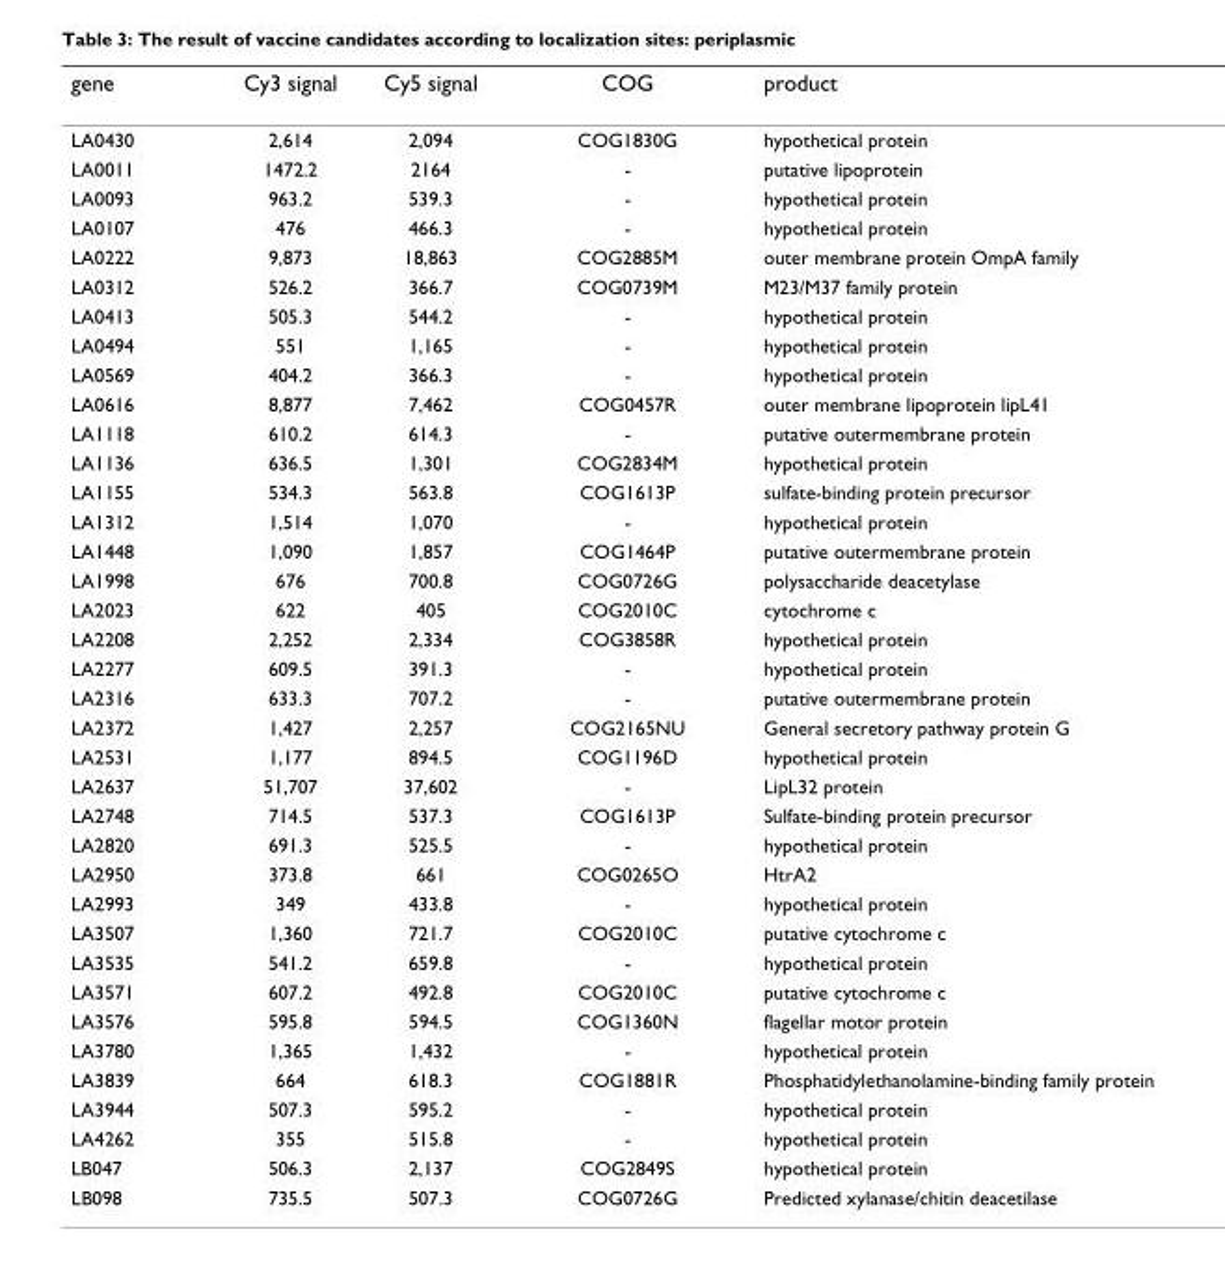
<table><thead><tr><td>gene</td><td>Cy3 signal</td><td>Cy5 signal</td><td>COG</td><td>product</td></tr></thead><tbody><tr><td>LA0430</td><td>2,614</td><td>2,094</td><td>COG1830G</td><td>hypothetical protein</td></tr><tr><td>LA0011</td><td>1472.2</td><td>2164</td><td>-</td><td>putative lipoprotein</td></tr><tr><td>LA0093</td><td>963.2</td><td>539.3</td><td>-</td><td>hypothetical protein</td></tr><tr><td>LA0107</td><td>476</td><td>466.3</td><td>-</td><td>hypothetical protein</td></tr><tr><td>LA0222</td><td>9,873</td><td>18,863</td><td>COG2885M</td><td>outer membrane protein OmpA family</td></tr><tr><td>LA0312</td><td>526.2</td><td>366.7</td><td>COG0739M</td><td>M23/M37 family protein</td></tr><tr><td>LA0413</td><td>505.3</td><td>544.2</td><td>-</td><td>hypothetical protein</td></tr><tr><td>LA0494</td><td>551</td><td>1,165</td><td>-</td><td>hypothetical protein</td></tr><tr><td>LA0569</td><td>404.2</td><td>366.3</td><td>-</td><td>hypothetical protein</td></tr><tr><td>LA0616</td><td>8,877</td><td>7,462</td><td>COG0457R</td><td>outer membrane lipoprotein lipL41</td></tr><tr><td>LA1118</td><td>610.2</td><td>614.3</td><td>-</td><td>putative outermembrane protein</td></tr><tr><td>LA1136</td><td>636.5</td><td>1,301</td><td>COG2834M</td><td>hypothetical protein</td></tr><tr><td>LA1155</td><td>534.3</td><td>563.8</td><td>COG1613P</td><td>sulfate-binding protein precursor</td></tr><tr><td>LA1312</td><td>1,514</td><td>1,070</td><td>-</td><td>hypothetical protein</td></tr><tr><td>LA1448</td><td>1,090</td><td>1,857</td><td>COG1464P</td><td>putative outermembrane protein</td></tr><tr><td>LA1998</td><td>676</td><td>700.8</td><td>COG0726G</td><td>polysaccharide deacetylase</td></tr><tr><td>LA2023</td><td>622</td><td>405</td><td>COG2010C</td><td>cytochrome c</td></tr><tr><td>LA2208</td><td>2,252</td><td>2,334</td><td>COG3858R</td><td>hypothetical protein</td></tr><tr><td>LA2277</td><td>609.5</td><td>391.3</td><td>-</td><td>hypothetical protein</td></tr><tr><td>LA2316</td><td>633.3</td><td>707.2</td><td>-</td><td>putative outermembrane protein</td></tr><tr><td>LA2372</td><td>1,427</td><td>2,257</td><td>COG2165NU</td><td>General secretory pathway protein G</td></tr><tr><td>LA2531</td><td>1,177</td><td>894.5</td><td>COG1196D</td><td>hypothetical protein</td></tr><tr><td>LA2637</td><td>51,707</td><td>37,602</td><td>-</td><td>LipL32 protein</td></tr><tr><td>LA2748</td><td>714.5</td><td>537.3</td><td>COG1613P</td><td>Sulfate-binding protein precursor</td></tr><tr><td>LA2820</td><td>691.3</td><td>525.5</td><td>-</td><td>hypothetical protein</td></tr><tr><td>LA2950</td><td>373.8</td><td>661</td><td>COG0265O</td><td>HtrA2</td></tr><tr><td>LA2993</td><td>349</td><td>433.8</td><td>-</td><td>hypothetical protein</td></tr><tr><td>LA3507</td><td>1,360</td><td>721.7</td><td>COG2010C</td><td>putative cytochrome c</td></tr><tr><td>LA3535</td><td>541.2</td><td>659.8</td><td>-</td><td>hypothetical protein</td></tr><tr><td>LA3571</td><td>607.2</td><td>492.8</td><td>COG2010C</td><td>putative cytochrome c</td></tr><tr><td>LA3576</td><td>595.8</td><td>594.5</td><td>COG1360N</td><td>flagellar motor protein</td></tr><tr><td>LA3780</td><td>1,365</td><td>1,432</td><td>-</td><td>hypothetical protein</td></tr><tr><td>LA3839</td><td>664</td><td>618.3</td><td>COG1881R</td><td>Phosphatidylethanolamine-binding family protein</td></tr><tr><td>LA3944</td><td>507.3</td><td>595.2</td><td>-</td><td>hypothetical protein</td></tr><tr><td>LA4262</td><td>355</td><td>515.8</td><td>-</td><td>hypothetical protein</td></tr><tr><td>LB047</td><td>506.3</td><td>2,137</td><td>COG2849S</td><td>hypothetical protein</td></tr><tr><td>LB098</td><td>735.5</td><td>507.3</td><td>COG0726G</td><td>Predicted xylanase/chitin deacetilase</td></tr></tbody></table>